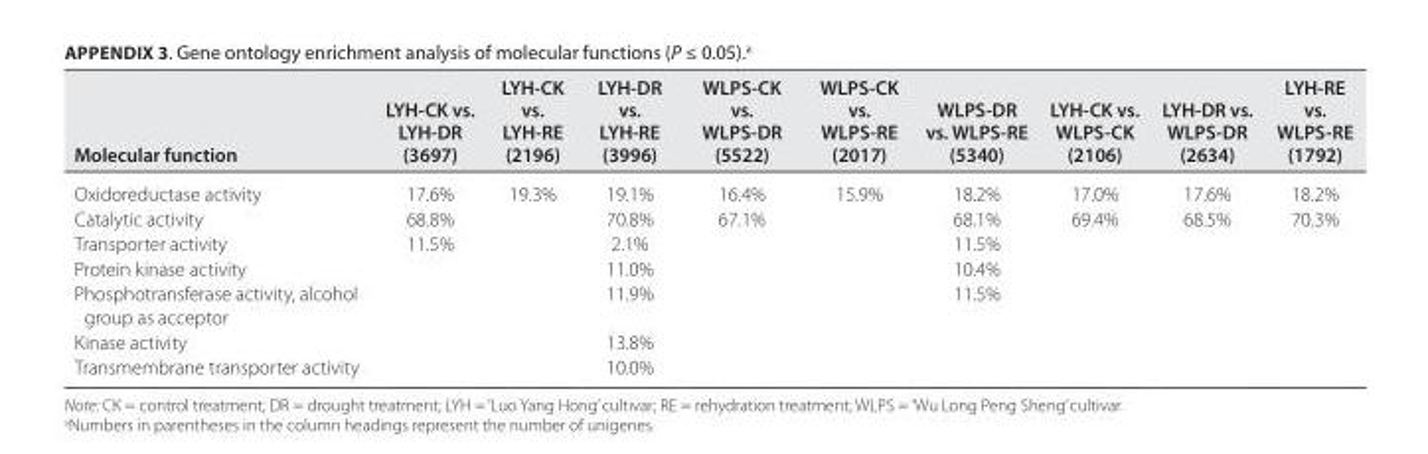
<table><thead><tr><td>Molecular function</td><td>LYH- CK vs. LYH- DR (3697)</td><td>LYH- CK vs. LYH- RE (2196)</td><td>LYH- DR vs. LYH- RE (3996)</td><td>WLPS- CK vs. WLPS- DR (5522)</td><td>WLPS- CK vs. WLPS- RE (2017)</td><td>WLPS- DR vs. WLPS- RE (5340)</td><td>LYH- CK vs. WLPS- CK (2106)</td><td>LYH- DR vs. WLPS- DR (2634)</td><td>LYH- RE vs. WLPS- RE (1792)</td></tr></thead><tbody><tr><td>Oxidoreductase activity</td><td>17.6%</td><td>19.3%</td><td>19.1%</td><td>16.4%</td><td>15.9%</td><td>18.2%</td><td>17.0%</td><td>17.6%</td><td>18.2%</td></tr><tr><td>Catalytic activity</td><td>68.8%</td><td></td><td>70.8%</td><td>67.1%</td><td></td><td>68.1%</td><td>69.4%</td><td>68.5%</td><td>70.3%</td></tr><tr><td>Transporter activity</td><td>11.5%</td><td></td><td>2.1%</td><td></td><td></td><td>11.5%</td><td></td><td></td><td></td></tr><tr><td>Protein kinase activity</td><td></td><td></td><td>11.0%</td><td></td><td></td><td>10.4%</td><td></td><td></td><td></td></tr><tr><td>Phosphotransferase activity, alcohol group as acceptor</td><td></td><td></td><td>11.9%</td><td></td><td></td><td>11.5%</td><td></td><td></td><td></td></tr><tr><td>Kinase activity</td><td></td><td></td><td>13.8%</td><td></td><td></td><td></td><td></td><td></td><td></td></tr><tr><td>Transmembrane transporter activity</td><td></td><td></td><td>10.0%</td><td></td><td></td><td></td><td></td><td></td><td></td></tr></tbody></table>